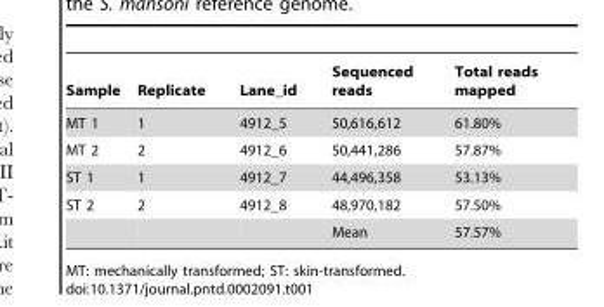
<table><thead><tr><td>Sample</td><td>Replicate</td><td>Lane_id</td><td>Sequenced reads</td><td>Total reads mapped</td></tr></thead><tbody><tr><td>MT 1</td><td>1</td><td>4912_5</td><td>50,616,612</td><td>61.80%</td></tr><tr><td>MT 2</td><td>2</td><td>4912_6</td><td>50,441,286</td><td>57.87%</td></tr><tr><td>ST 1</td><td>1</td><td>4912_7</td><td>44,496,358</td><td>53.13%</td></tr><tr><td rowspan="2">ST 2</td><td>2</td><td>4912_8</td><td>48,970,182</td><td>57.50%</td></tr><tr><td></td><td></td><td>Mean</td><td>57.57%</td></tr></tbody></table>